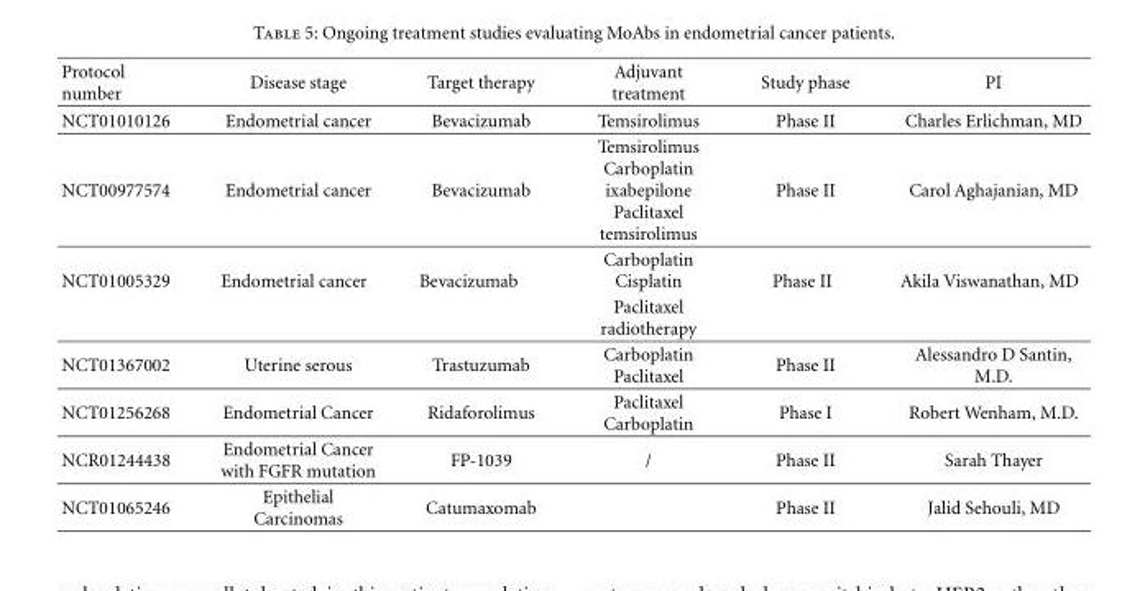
<table><thead><tr><td>Protocol number</td><td>Disease stage</td><td>Target therapy</td><td>Adjuvant treatment</td><td>Study phase</td><td>PI</td></tr></thead><tbody><tr><td>NCT01010126</td><td>Endometrial cancer</td><td>Bevacizumab</td><td>Temsirolimus</td><td>Phase II</td><td>Charles Erlichman, MD</td></tr><tr><td>NCT00977574</td><td>Endometrial cancer</td><td>Bevacizumab</td><td>Temsirolimus Carboplatin ixabepilone Paclitaxel temsirolimus</td><td>Phase II</td><td>Carol Aghajanian, MD</td></tr><tr><td rowspan="2">NCT01005329</td><td rowspan="2">Endometrial cancer</td><td rowspan="2">Bevacizumab</td><td>Carboplatin Cisplatin</td><td rowspan="2">Phase II</td><td rowspan="2">Akila Viswanathan, MD</td></tr><tr><td>Paclitaxel radiotherapy</td></tr><tr><td>NCT01367002</td><td>Uterine serous</td><td>Trastuzumab</td><td>Carboplatin Paclitaxel</td><td>Phase II</td><td>Alessandro D Santin, M.D.</td></tr><tr><td>NCT01256268</td><td>Endometrial Cancer</td><td>Ridaforolimus</td><td>Paclitaxel Carboplatin</td><td>Phase I</td><td>Robert Wenham, M.D.</td></tr><tr><td>NCR01244438</td><td>Endometrial Cancer with FGFR mutation</td><td>FP-1039</td><td>/</td><td>Phase II</td><td>Sarah Thayer</td></tr><tr><td>NCT01065246</td><td>Epithelial Carcinomas</td><td>Catumaxomab</td><td></td><td>Phase II</td><td>Jalid Sehouli, MD</td></tr></tbody></table>